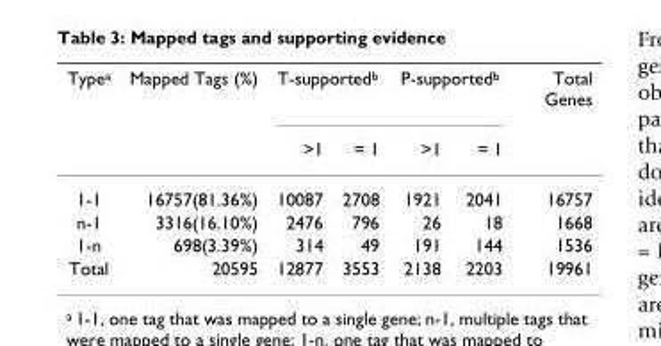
<table><thead><tr><td rowspan="2">Type<sup>a</sup></td><td rowspan="2">Mapped Tags (%)</td><td colspan="2">T-supported<sup>b</sup></td><td colspan="2">P-supported<sup>b</sup></td><td rowspan="2">Total Genes</td></tr><tr><td>&gt;1</td><td>= 1</td><td>&gt;1</td><td>= 1</td></tr></thead><tbody><tr><td>1-1</td><td>16757(81.36%)</td><td>10087</td><td>2708</td><td>1921</td><td>2041</td><td>16757</td></tr><tr><td>n-1</td><td>3316(16.10%)</td><td>2476</td><td>796</td><td>26</td><td>18</td><td>1668</td></tr><tr><td>1-n</td><td>698(3.39%)</td><td>314</td><td>49</td><td>191</td><td>144</td><td>1536</td></tr><tr><td>Total</td><td>20595</td><td>12877</td><td>3553</td><td>2138</td><td>2203</td><td>19961</td></tr></tbody></table>